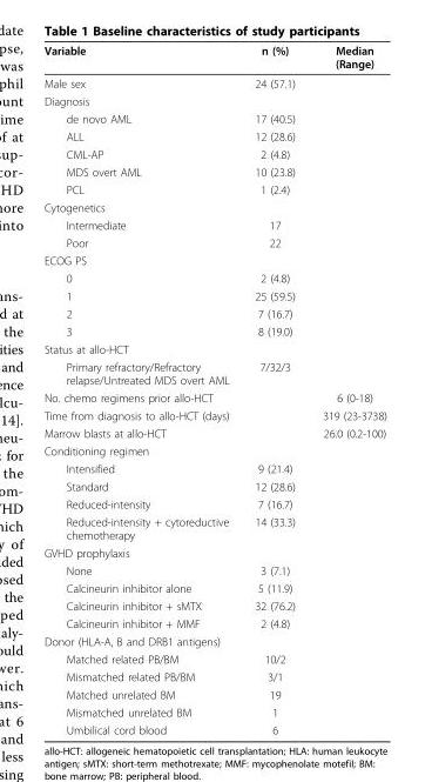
<table><thead><tr><td>Variable</td><td>n (%)</td><td>Median (Range)</td></tr></thead><tbody><tr><td>Male sex</td><td>24 (57.1)</td><td></td></tr><tr><td colspan="3">Diagnosis</td></tr><tr><td>de novo AML</td><td>17 (40.5)</td><td></td></tr><tr><td>ALL</td><td>12 (28.6)</td><td></td></tr><tr><td>CML-AP</td><td>2 (4.8)</td><td></td></tr><tr><td>MDS overt AML</td><td>10 (23.8)</td><td></td></tr><tr><td>PCL</td><td>1 (2.4)</td><td></td></tr><tr><td colspan="3">Cytogenetics</td></tr><tr><td>Intermediate</td><td>17</td><td></td></tr><tr><td>Poor</td><td>22</td><td></td></tr><tr><td colspan="3">ECOG PS</td></tr><tr><td>0</td><td>2 (4.8)</td><td></td></tr><tr><td>1</td><td>25 (59.5)</td><td></td></tr><tr><td>2</td><td>7 (16.7)</td><td></td></tr><tr><td>3</td><td>8 (19.0)</td><td></td></tr><tr><td colspan="3">Status at allo-HCT</td></tr><tr><td>Primary refractory/Refractory relapse/Untreated MDS overt AML</td><td>7/32/3</td><td></td></tr><tr><td>No. chemo regimens prior allo-HCT</td><td></td><td>6 (0-18)</td></tr><tr><td>Time from diagnosis to allo-HCT (days)</td><td></td><td>319 (23-3738)</td></tr><tr><td>Marrow blasts at allo-HCT</td><td></td><td>26.0 (0.2-100)</td></tr><tr><td colspan="3">Conditioning regimen</td></tr><tr><td>Intensified</td><td>9 (21.4)</td><td></td></tr><tr><td>Standard</td><td>12 (28.6)</td><td></td></tr><tr><td>Reduced-intensity</td><td>7 (16.7)</td><td></td></tr><tr><td>Reduced-intensity + cytoreductive chemotherapy</td><td>14 (33.3)</td><td></td></tr><tr><td colspan="3">GVHD prophylaxis</td></tr><tr><td>None</td><td>3 (7.1)</td><td></td></tr><tr><td>Calcineurin inhibitor alone</td><td>5 (11.9)</td><td></td></tr><tr><td>Calcineurin inhibitor + sMTX</td><td>32 (76.2)</td><td></td></tr><tr><td>Calcineurin inhibitor + MMF</td><td>2 (4.8)</td><td></td></tr><tr><td colspan="3">Donor (HLA-A, B and DRB1 antigens)</td></tr><tr><td>Matched related PB/BM</td><td>10/2</td><td></td></tr><tr><td>Mismatched related PB/BM</td><td>3/1</td><td></td></tr><tr><td>Matched unrelated BM</td><td>19</td><td></td></tr><tr><td>Mismatched unrelated BM</td><td>1</td><td></td></tr><tr><td>Umbilical cord blood</td><td>6</td><td></td></tr></tbody></table>